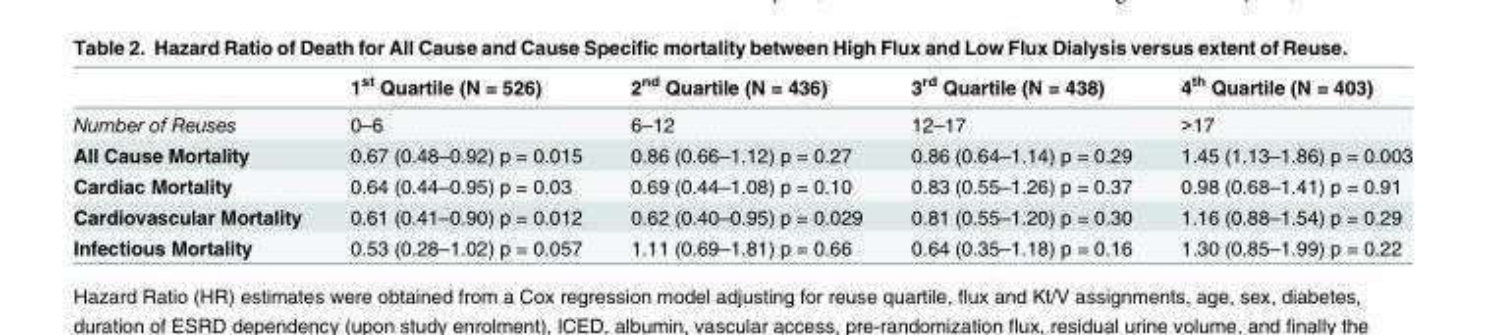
<table><thead><tr><td></td><td>1<sup>st</sup> Quartile (N = 526)</td><td>2<sup>nd</sup> Quartile (N = 436)</td><td>3<sup>rd</sup> Quartile (N = 438)</td><td>4<sup>th</sup> Quartile (N = 403)</td></tr></thead><tbody><tr><td>Number of Reuses</td><td>0–6</td><td>6–12</td><td>12–17</td><td>&gt;17</td></tr><tr><td>All Cause Mortality</td><td>0.67 (0.48–0.92) p = 0.015</td><td>0.86 (0.66–1.12) p = 0.27</td><td>0.86 (0.64–1.14) p = 0.29</td><td>1.45 (1.13–1.86) p = 0.003</td></tr><tr><td>Cardiac Mortality</td><td>0.64 (0.44–0.95) p = 0.03</td><td>0.69 (0.44–1.08) p = 0.10</td><td>0.83 (0.55–1.26) p = 0.37</td><td>0.98 (0.68–1.41) p = 0.91</td></tr><tr><td>Cardiovascular Mortality</td><td>0.61 (0.41–0.90) p = 0.012</td><td>0.62 (0.40–0.95) p = 0.029</td><td>0.81 (0.55–1.20) p = 0.30</td><td>1.16 (0.88–1.54) p = 0.29</td></tr><tr><td>Infectious Mortality</td><td>0.53 (0.28–1.02) p = 0.057</td><td>1.11 (0.69–1.81) p = 0.66</td><td>0.64 (0.35–1.18) p = 0.16</td><td>1.30 (0.85–1.99) p = 0.22</td></tr></tbody></table>